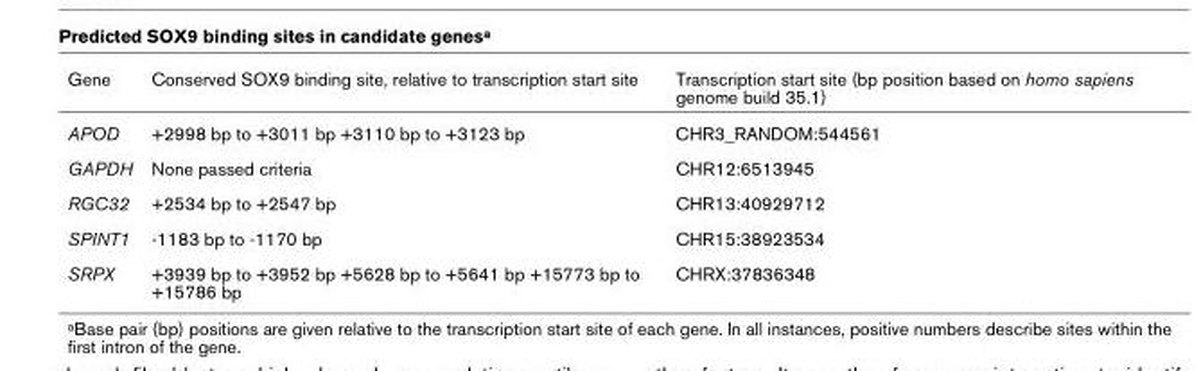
<table><thead><tr><td>Gene</td><td>Conserved SOX9 binding site, relative to transcription start site</td><td>Transcription start site (bp position based on homo sapiens genome build 35.1)</td></tr></thead><tbody><tr><td>APOD</td><td>+2998 bp to +3011 bp +3110 bp to +3123 bp</td><td>CHR3_RANDOM:544561</td></tr><tr><td>GAPDH</td><td>None passed criteria</td><td>CHR12:6513945</td></tr><tr><td>RGC32</td><td>+2534 bp to +2547 bp</td><td>CHR13:40929712</td></tr><tr><td>SPINT1</td><td>-1183 bp to -1170 bp</td><td>CHR15:38923534</td></tr><tr><td>SRPX</td><td>+3939 bp to +3952 bp +5628 bp to +5641 bp +15773 bp to +15786 bp</td><td>CHRX:37836348</td></tr></tbody></table>